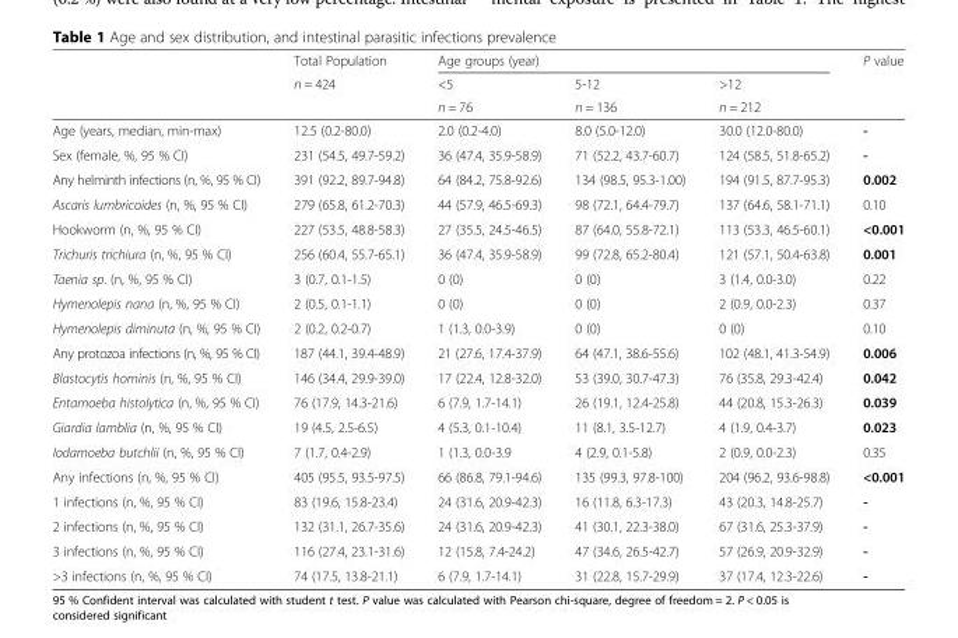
<table><thead><tr><td rowspan="3"></td><td rowspan="3">Total Population n = 424</td><td colspan="3">Age groups (year)</td><td rowspan="3">P value</td></tr><tr><td rowspan="2">&lt;5 n = 76</td><td rowspan="2">5-12 n = 136</td><td rowspan="2">&gt;12 n = 212</td></tr><tr></tr></thead><tbody><tr><td>Age (years, median, min-max)</td><td>12.5 (0.2-80.0)</td><td>2.0 (0.2-4.0)</td><td>8.0 (5.0-12.0)</td><td>30.0 (12.0-80.0)</td><td>-</td></tr><tr><td>Sex (female, %, 95 % CI)</td><td>231 (54.5, 49.7-59.2)</td><td>36 (47.4, 35.9-58.9)</td><td>71 (52.2, 43.7-60.7)</td><td>124 (58.5, 51.8-65.2)</td><td>-</td></tr><tr><td>Any helminth infections (n, %, 95 % CI)</td><td>391 (92.2, 89.7-94.8)</td><td>64 (84.2, 75.8-92.6)</td><td>134 (98.5, 95.3-1.00)</td><td>194 (91.5, 87.7-95.3)</td><td>0.002</td></tr><tr><td>Ascaris lumbricoides (n, %, 95 % CI)</td><td>279 (65.8, 61.2-70.3)</td><td>44 (57.9, 46.5-69.3)</td><td>98 (72.1, 64.4-79.7)</td><td>137 (64.6, 58.1-71.1)</td><td>0.10</td></tr><tr><td>Hookworm (n, %, 95 % CI)</td><td>227 (53.5, 48.8-58.3)</td><td>27 (35.5, 24.5-46.5)</td><td>87 (64.0, 55.8-72.1)</td><td>113 (53.3, 46.5-60.1)</td><td>&lt;0.001</td></tr><tr><td>Trichuris trichiura (n, %, 95 % CI)</td><td>256 (60.4, 55.7-65.1)</td><td>36 (47.4, 35.9-58.9)</td><td>99 (72.8, 65.2-80.4)</td><td>121 (57.1, 50.4-63.8)</td><td>0.001</td></tr><tr><td>Taenia sp. (n, %, 95 % CI)</td><td>3 (0.7, 0.1-1.5)</td><td>0 (0)</td><td>0 (0)</td><td>3 (1.4, 0.0-3.0)</td><td>0.22</td></tr><tr><td>Hymenolepis nana (n, %, 95 % CI)</td><td>2 (0.5, 0.1-1.1)</td><td>0 (0)</td><td>0 (0)</td><td>2 (0.9, 0.0-2.3)</td><td>0.37</td></tr><tr><td>Hymenolepis diminuta (n, %, 95 % CI)</td><td>2 (0.2, 0.2-0.7)</td><td>1 (1.3, 0.0-3.9)</td><td>0 (0)</td><td>0 (0)</td><td>0.10</td></tr><tr><td>Any protozoa infections (n, %, 95 % CI)</td><td>187 (44.1, 39.4-48.9)</td><td>21 (27.6, 17.4-37.9)</td><td>64 (47.1, 38.6-55.6)</td><td>102 (48.1, 41.3-54.9)</td><td>0.006</td></tr><tr><td>Blastocytis hominis (n, %, 95 % CI)</td><td>146 (34.4, 29.9-39.0)</td><td>17 (22.4, 12.8-32.0)</td><td>53 (39.0, 30.7-47.3)</td><td>76 (35.8, 29.3-42.4)</td><td>0.042</td></tr><tr><td>Entamoeba histolytica (n, %, 95 % CI)</td><td>76 (17.9, 14.3-21.6)</td><td>6 (7.9, 1.7-14.1)</td><td>26 (19.1, 12.4-25.8)</td><td>44 (20.8, 15.3-26.3)</td><td>0.039</td></tr><tr><td>Giardia lamblia (n, %, 95 % CI)</td><td>19 (4.5, 2.5-6.5)</td><td>4 (5.3, 0.1-10.4)</td><td>11 (8.1, 3.5-12.7)</td><td>4 (1.9, 0.4-3.7)</td><td>0.023</td></tr><tr><td>Iodamoeba butchlii (n, %, 95 % CI)</td><td>7 (1.7, 0.4-2.9)</td><td>1 (1.3, 0.0-3.9</td><td>4 (2.9, 0.1-5.8)</td><td>2 (0.9, 0.0-2.3)</td><td>0.35</td></tr><tr><td>Any infections (n, %, 95 % CI)</td><td>405 (95.5, 93.5-97.5)</td><td>66 (86.8, 79.1-94.6)</td><td>135 (99.3, 97.8-100)</td><td>204 (96.2, 93.6-98.8)</td><td>&lt;0.001</td></tr><tr><td>1 infections (n, %, 95 % CI)</td><td>83 (19.6, 15.8-23.4)</td><td>24 (31.6, 20.9-42.3)</td><td>16 (11.8, 6.3-17.3)</td><td>43 (20.3, 14.8-25.7)</td><td>-</td></tr><tr><td>2 infections (n, %, 95 % CI)</td><td>132 (31.1, 26.7-35.6)</td><td>24 (31.6, 20.9-42.3)</td><td>41 (30.1, 22.3-38.0)</td><td>67 (31.6, 25.3-37.9)</td><td>-</td></tr><tr><td>3 infections (n, %, 95 % CI)</td><td>116 (27.4, 23.1-31.6)</td><td>12 (15.8, 7.4-24.2)</td><td>47 (34.6, 26.5-42.7)</td><td>57 (26.9, 20.9-32.9)</td><td>-</td></tr><tr><td>&gt;3 infections (n, %, 95 % CI)</td><td>74 (17.5, 13.8-21.1)</td><td>6 (7.9, 1.7-14.1)</td><td>31 (22.8, 15.7-29.9)</td><td>37 (17.4, 12.3-22.6)</td><td>-</td></tr></tbody></table>